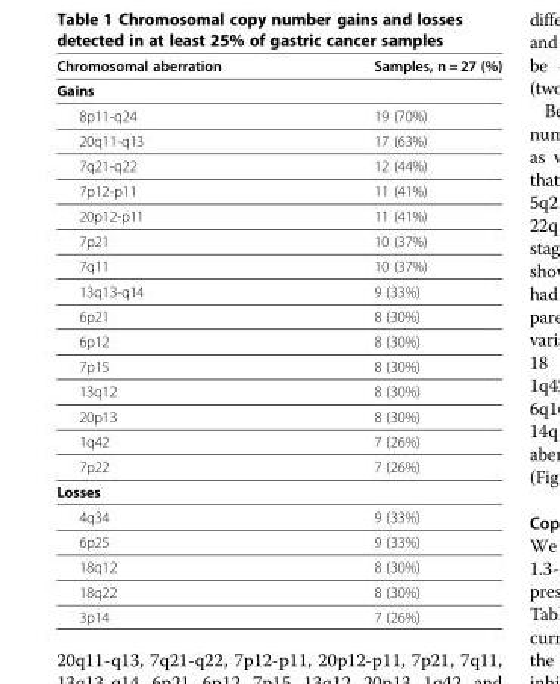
<table><thead><tr><td>Chromosomal aberration</td><td>Samples, n = 27 (%)</td></tr></thead><tbody><tr><td colspan="2">Gains</td></tr><tr><td>8p11-q24</td><td>19 (70%)</td></tr><tr><td>20q11-q13</td><td>17 (63%)</td></tr><tr><td>7q21-q22</td><td>12 (44%)</td></tr><tr><td>7p12-p11</td><td>11 (41%)</td></tr><tr><td>20p12-p11</td><td>11 (41%)</td></tr><tr><td>7p21</td><td>10 (37%)</td></tr><tr><td>7q11</td><td>10 (37%)</td></tr><tr><td>13q13-q14</td><td>9 (33%)</td></tr><tr><td>6p21</td><td>8 (30%)</td></tr><tr><td>6p12</td><td>8 (30%)</td></tr><tr><td>7p15</td><td>8 (30%)</td></tr><tr><td>13q12</td><td>8 (30%)</td></tr><tr><td>20p13</td><td>8 (30%)</td></tr><tr><td>1q42</td><td>7 (26%)</td></tr><tr><td>7p22</td><td>7 (26%)</td></tr><tr><td colspan="2">Losses</td></tr><tr><td>4q34</td><td>9 (33%)</td></tr><tr><td>6p25</td><td>9 (33%)</td></tr><tr><td>18q12</td><td>8 (30%)</td></tr><tr><td>18q22</td><td>8 (30%)</td></tr><tr><td>3p14</td><td>7 (26%)</td></tr></tbody></table>